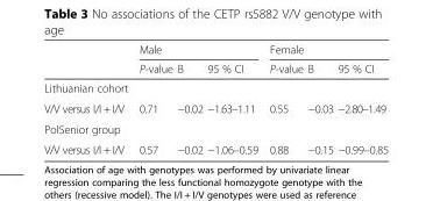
<table><thead><tr><td rowspan="2"></td><td colspan="3">Male</td><td colspan="3">Female</td></tr><tr><td>P-value</td><td>B</td><td>95 % CI</td><td>P-value</td><td>B</td><td>95 % CI</td></tr></thead><tbody><tr><td colspan="7">Lithuanian cohort</td></tr><tr><td>V/V versus I/I + I/V</td><td>0.71</td><td>−0.02</td><td>−1.63–1.11</td><td>0.55</td><td>−0.03</td><td>−2.80–1.49</td></tr><tr><td colspan="7">PolSenior group</td></tr><tr><td>V/V versus I/I + I/V</td><td>0.57</td><td>−0.02</td><td>−1.06–0.59</td><td>0.88</td><td>−0.15</td><td>−0.99–0.85</td></tr></tbody></table>